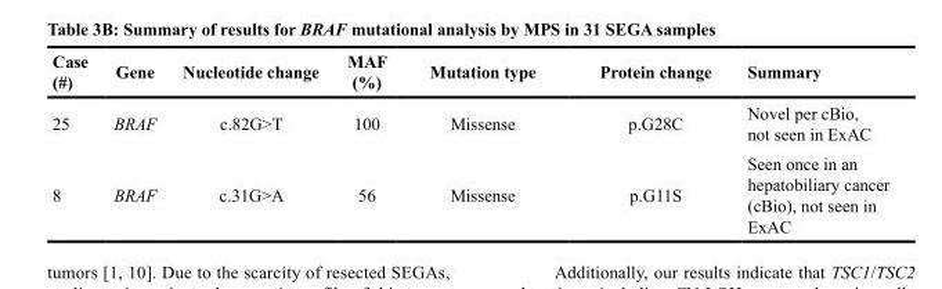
<table><thead><tr><td>Case (#)</td><td>Gene</td><td>Nucleotide change</td><td>MAF (%)</td><td>Mutation type</td><td>Protein change</td><td>Summary</td></tr></thead><tbody><tr><td>25</td><td>BRAF</td><td>c.82G&gt;T</td><td>100</td><td>Missense</td><td>p.G28C</td><td>Novel per cBio, not seen in ExAC</td></tr><tr><td>8</td><td>BRAF</td><td>c.31G&gt;A</td><td>56</td><td>Missense</td><td>p.G11S</td><td>Seen once in an hepatobiliary cancer (cBio), not seen in ExAC</td></tr></tbody></table>